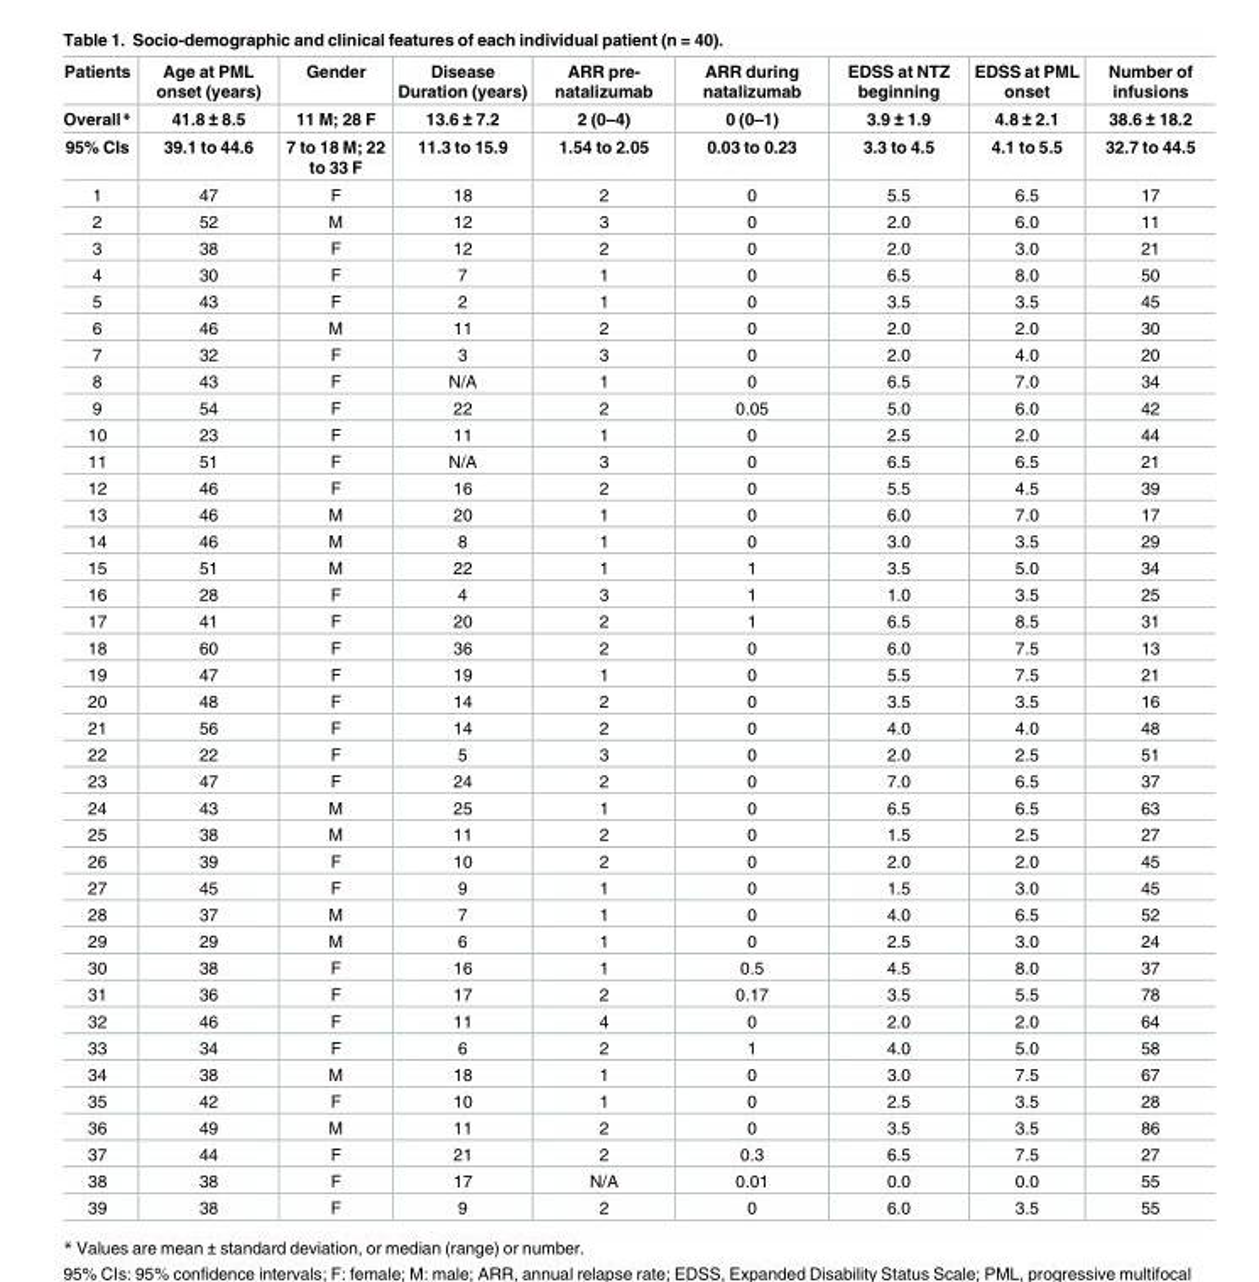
<table><thead><tr><td rowspan="3">Patients Overall* 95% CIs</td><td rowspan="3">Age at PML onset (years) 41.8 ± 8.5 39.1 to 44.6</td><td rowspan="3">Gender 11 M; 28 F 7 to 18 M; 22 to 33 F</td><td rowspan="3">Disease Duration (years) 13.6 ± 7.2 11.3 to 15.9</td><td rowspan="3">ARR pre- natalizumab 2 (0–4) 1.54 to 2.05</td><td rowspan="3">ARR during natalizumab 0 (0–1) 0.03 to 0.23</td><td rowspan="3">EDSS at NTZ beginning 3.9 ± 1.9 3.3 to 4.5</td><td rowspan="3">EDSS at PML onset 4.8 ± 2.1 4.1 to 5.5</td><td rowspan="3">Number of infusions 38.6 ± 18.2 32.7 to 44.5</td></tr><tr></tr><tr></tr></thead><tbody><tr><td>1</td><td>47</td><td>F</td><td>18</td><td>2</td><td>0</td><td>5.5</td><td>6.5</td><td>17</td></tr><tr><td>2</td><td>52</td><td>M</td><td>12</td><td>3</td><td>0</td><td>2.0</td><td>6.0</td><td>11</td></tr><tr><td>3</td><td>38</td><td>F</td><td>12</td><td>2</td><td>0</td><td>2.0</td><td>3.0</td><td>21</td></tr><tr><td>4</td><td>30</td><td>F</td><td>7</td><td>1</td><td>0</td><td>6.5</td><td>8.0</td><td>50</td></tr><tr><td>5</td><td>43</td><td>F</td><td>2</td><td>1</td><td>0</td><td>3.5</td><td>3.5</td><td>45</td></tr><tr><td>6</td><td>46</td><td>M</td><td>11</td><td>2</td><td>0</td><td>2.0</td><td>2.0</td><td>30</td></tr><tr><td>7</td><td>32</td><td>F</td><td>3</td><td>3</td><td>0</td><td>2.0</td><td>4.0</td><td>20</td></tr><tr><td>8</td><td>43</td><td>F</td><td>N/A</td><td>1</td><td>0</td><td>6.5</td><td>7.0</td><td>34</td></tr><tr><td>9</td><td>54</td><td>F</td><td>22</td><td>2</td><td>0.05</td><td>5.0</td><td>6.0</td><td>42</td></tr><tr><td>10</td><td>23</td><td>F</td><td>11</td><td>1</td><td>0</td><td>2.5</td><td>2.0</td><td>44</td></tr><tr><td>11</td><td>51</td><td>F</td><td>N/A</td><td>3</td><td>0</td><td>6.5</td><td>6.5</td><td>21</td></tr><tr><td>12</td><td>46</td><td>F</td><td>16</td><td>2</td><td>0</td><td>5.5</td><td>4.5</td><td>39</td></tr><tr><td>13</td><td>46</td><td>M</td><td>20</td><td>1</td><td>0</td><td>6.0</td><td>7.0</td><td>17</td></tr><tr><td>14</td><td>46</td><td>M</td><td>8</td><td>1</td><td>0</td><td>3.0</td><td>3.5</td><td>29</td></tr><tr><td>15</td><td>51</td><td>M</td><td>22</td><td>1</td><td>1</td><td>3.5</td><td>5.0</td><td>34</td></tr><tr><td>16</td><td>28</td><td>F</td><td>4</td><td>3</td><td>1</td><td>1.0</td><td>3.5</td><td>25</td></tr><tr><td>17</td><td>41</td><td>F</td><td>20</td><td>2</td><td>1</td><td>6.5</td><td>8.5</td><td>31</td></tr><tr><td>18</td><td>60</td><td>F</td><td>36</td><td>2</td><td>0</td><td>6.0</td><td>7.5</td><td>13</td></tr><tr><td>19</td><td>47</td><td>F</td><td>19</td><td>1</td><td>0</td><td>5.5</td><td>7.5</td><td>21</td></tr><tr><td>20</td><td>48</td><td>F</td><td>14</td><td>2</td><td>0</td><td>3.5</td><td>3.5</td><td>16</td></tr><tr><td>21</td><td>56</td><td>F</td><td>14</td><td>2</td><td>0</td><td>4.0</td><td>4.0</td><td>48</td></tr><tr><td>22</td><td>22</td><td>F</td><td>5</td><td>3</td><td>0</td><td>2.0</td><td>2.5</td><td>51</td></tr><tr><td>23</td><td>47</td><td>F</td><td>24</td><td>2</td><td>0</td><td>7.0</td><td>6.5</td><td>37</td></tr><tr><td>24</td><td>43</td><td>M</td><td>25</td><td>1</td><td>0</td><td>6.5</td><td>6.5</td><td>63</td></tr><tr><td>25</td><td>38</td><td>M</td><td>11</td><td>2</td><td>0</td><td>1.5</td><td>2.5</td><td>27</td></tr><tr><td>26</td><td>39</td><td>F</td><td>10</td><td>2</td><td>0</td><td>2.0</td><td>2.0</td><td>45</td></tr><tr><td>27</td><td>45</td><td>F</td><td>9</td><td>1</td><td>0</td><td>1.5</td><td>3.0</td><td>45</td></tr><tr><td>28</td><td>37</td><td>M</td><td>7</td><td>1</td><td>0</td><td>4.0</td><td>6.5</td><td>52</td></tr><tr><td>29</td><td>29</td><td>M</td><td>6</td><td>1</td><td>0</td><td>2.5</td><td>3.0</td><td>24</td></tr><tr><td>30</td><td>38</td><td>F</td><td>16</td><td>1</td><td>0.5</td><td>4.5</td><td>8.0</td><td>37</td></tr><tr><td>31</td><td>36</td><td>F</td><td>17</td><td>2</td><td>0.17</td><td>3.5</td><td>5.5</td><td>78</td></tr><tr><td>32</td><td>46</td><td>F</td><td>11</td><td>4</td><td>0</td><td>2.0</td><td>2.0</td><td>64</td></tr><tr><td>33</td><td>34</td><td>F</td><td>6</td><td>2</td><td>1</td><td>4.0</td><td>5.0</td><td>58</td></tr><tr><td>34</td><td>38</td><td>M</td><td>18</td><td>1</td><td>0</td><td>3.0</td><td>7.5</td><td>67</td></tr><tr><td>35</td><td>42</td><td>F</td><td>10</td><td>1</td><td>0</td><td>2.5</td><td>3.5</td><td>28</td></tr><tr><td>36</td><td>49</td><td>M</td><td>11</td><td>2</td><td>0</td><td>3.5</td><td>3.5</td><td>86</td></tr><tr><td>37</td><td>44</td><td>F</td><td>21</td><td>2</td><td>0.3</td><td>6.5</td><td>7.5</td><td>27</td></tr><tr><td>38</td><td>38</td><td>F</td><td>17</td><td>N/A</td><td>0.01</td><td>0.0</td><td>0.0</td><td>55</td></tr><tr><td>39</td><td>38</td><td>F</td><td>9</td><td>2</td><td>0</td><td>6.0</td><td>3.5</td><td>55</td></tr></tbody></table>